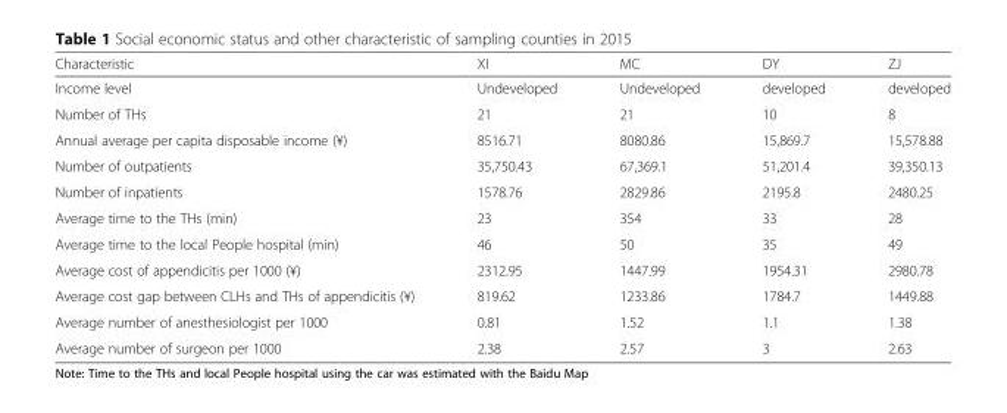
<table><thead><tr><td>Characteristic</td><td>XI</td><td>MC</td><td>DY</td><td>ZJ</td></tr></thead><tbody><tr><td>Income level</td><td>Undeveloped</td><td>Undeveloped</td><td>developed</td><td>developed</td></tr><tr><td>Number of THs</td><td>21</td><td>21</td><td>10</td><td>8</td></tr><tr><td>Annual average per capita disposable income (¥)</td><td>8516.71</td><td>8080.86</td><td>15,869.7</td><td>15,578.88</td></tr><tr><td>Number of outpatients</td><td>35,750.43</td><td>67,369.1</td><td>51,201.4</td><td>39,350.13</td></tr><tr><td>Number of inpatients</td><td>1578.76</td><td>2829.86</td><td>2195.8</td><td>2480.25</td></tr><tr><td>Average time to the THs (min)</td><td>23</td><td>354</td><td>33</td><td>28</td></tr><tr><td>Average time to the local People hospital (min)</td><td>46</td><td>50</td><td>35</td><td>49</td></tr><tr><td>Average cost of appendicitis per 1000 (¥)</td><td>2312.95</td><td>1447.99</td><td>1954.31</td><td>2980.78</td></tr><tr><td>Average cost gap between CLHs and THs of appendicitis (¥)</td><td>819.62</td><td>1233.86</td><td>1784.7</td><td>1449.88</td></tr><tr><td>Average number of anesthesiologist per 1000</td><td>0.81</td><td>1.52</td><td>1.1</td><td>1.38</td></tr><tr><td>Average number of surgeon per 1000</td><td>2.38</td><td>2.57</td><td>3</td><td>2.63</td></tr></tbody></table>